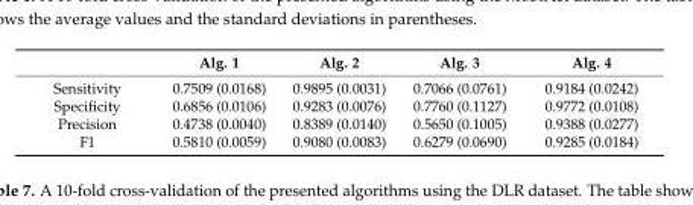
<table><thead><tr><td></td><td>Alg. 1</td><td>Alg. 2</td><td>Alg. 3</td><td>Alg. 4</td></tr></thead><tbody><tr><td>Sensitivity</td><td>0.7509 (0.0168)</td><td>0.9895 (0.0031)</td><td>0.7066 (0.0761)</td><td>0.9184 (0.0242)</td></tr><tr><td>Specificity</td><td>0.6856 (0.0106)</td><td>0.9283 (0.0076)</td><td>0.7760 (0.1127)</td><td>0.9772 (0.0108)</td></tr><tr><td>Precision</td><td>0.4738 (0.0040)</td><td>0.8389 (0.0140)</td><td>0.5650 (0.1005)</td><td>0.9388 (0.0277)</td></tr><tr><td>F1</td><td>0.5810 (0.0059)</td><td>0.9080 (0.0083)</td><td>0.6279 (0.0690)</td><td>0.9285 (0.0184)</td></tr></tbody></table>